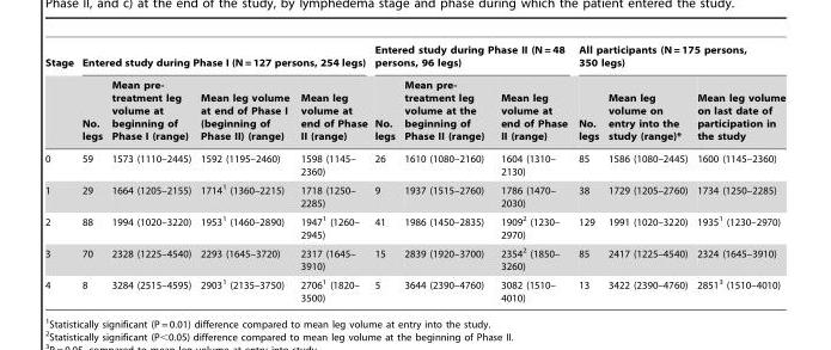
<table><thead><tr><td rowspan="2">Stage</td><td colspan="4">Entered study during Phase I (N = 127 persons, 254 legs)</td><td colspan="3">Entered study during Phase II (N = 48 persons, 96 legs)</td><td colspan="3">All participants (N = 175 persons, 350 legs)</td></tr><tr><td>No. legs</td><td>Mean pre- treatment leg volume at beginning of Phase I (range)</td><td>Mean leg volume at end of Phase I (beginning of Phase II) (range)</td><td>Mean leg volume at end of Phase II (range)</td><td>No. legs</td><td>Mean pre- treatment leg volume at the beginning of Phase II (range)</td><td>Mean leg volume at end of Phase II (range)</td><td>No. legs</td><td>Mean leg volume on entry into the study (range)*</td><td>Mean leg volume on last date of participation in the study</td></tr></thead><tbody><tr><td>0</td><td>59</td><td>1573 (1110–2445)</td><td>1592 (1195–2460)</td><td>1598 (1145– 2360)</td><td>26</td><td>1610 (1080–2160)</td><td>1604 (1310– 2130)</td><td>85</td><td>1586 (1080–2445)</td><td>1600 (1145–2360)</td></tr><tr><td>1</td><td>29</td><td>1664 (1205–2155)</td><td>1714<sup>1</sup> (1360–2215)</td><td>1718 (1250– 2285)</td><td>9</td><td>1937 (1515–2760)</td><td>1786 (1470– 2030)</td><td>38</td><td>1729 (1205–2760)</td><td>1734 (1250–2285)</td></tr><tr><td>2</td><td>88</td><td>1994 (1020–3220)</td><td>1953<sup>1</sup> (1460–2890)</td><td>1947<sup>1</sup> (1260– 2945)</td><td>41</td><td>1986 (1450–2835)</td><td>1909<sup>2</sup> (1230– 2970)</td><td>129</td><td>1991 (1020–3220)</td><td>1935<sup>1</sup> (1230–2970)</td></tr><tr><td>3</td><td>70</td><td>2328 (1225–4540)</td><td>2293 (1645–3720)</td><td>2317 (1645– 3910)</td><td>15</td><td>2839 (1920–3700)</td><td>2354<sup>2</sup> (1850– 3260)</td><td>85</td><td>2417 (1225–4540)</td><td>2324 (1645–3910)</td></tr><tr><td>4</td><td>8</td><td>3284 (2515–4595)</td><td>2903<sup>1</sup> (2135–3750)</td><td>2706<sup>1</sup> (1820– 3500)</td><td>5</td><td>3644 (2390–4760)</td><td>3082 (1510– 4010)</td><td>13</td><td>3422 (2390–4760)</td><td>2851<sup>3</sup> (1510–4010)</td></tr></tbody></table>